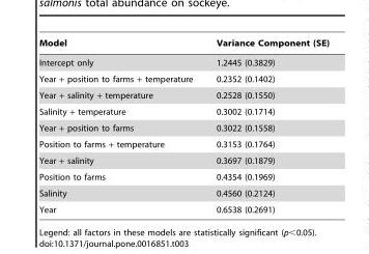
<table><thead><tr><td>Model</td><td>Variance Component (SE)</td></tr></thead><tbody><tr><td>Intercept only</td><td>1.2445 (0.3829)</td></tr><tr><td>Year + position to farms + temperature</td><td>0.2352 (0.1402)</td></tr><tr><td>Year + salinity + temperature</td><td>0.2528 (0.1550)</td></tr><tr><td>Salinity + temperature</td><td>0.3002 (0.1714)</td></tr><tr><td>Year + position to farms</td><td>0.3022 (0.1558)</td></tr><tr><td>Position to farms + temperature</td><td>0.3153 (0.1764)</td></tr><tr><td>Year + salinity</td><td>0.3697 (0.1879)</td></tr><tr><td>Position to farms</td><td>0.4354 (0.1969)</td></tr><tr><td>Salinity</td><td>0.4560 (0.2124)</td></tr><tr><td>Year</td><td>0.6538 (0.2691)</td></tr></tbody></table>